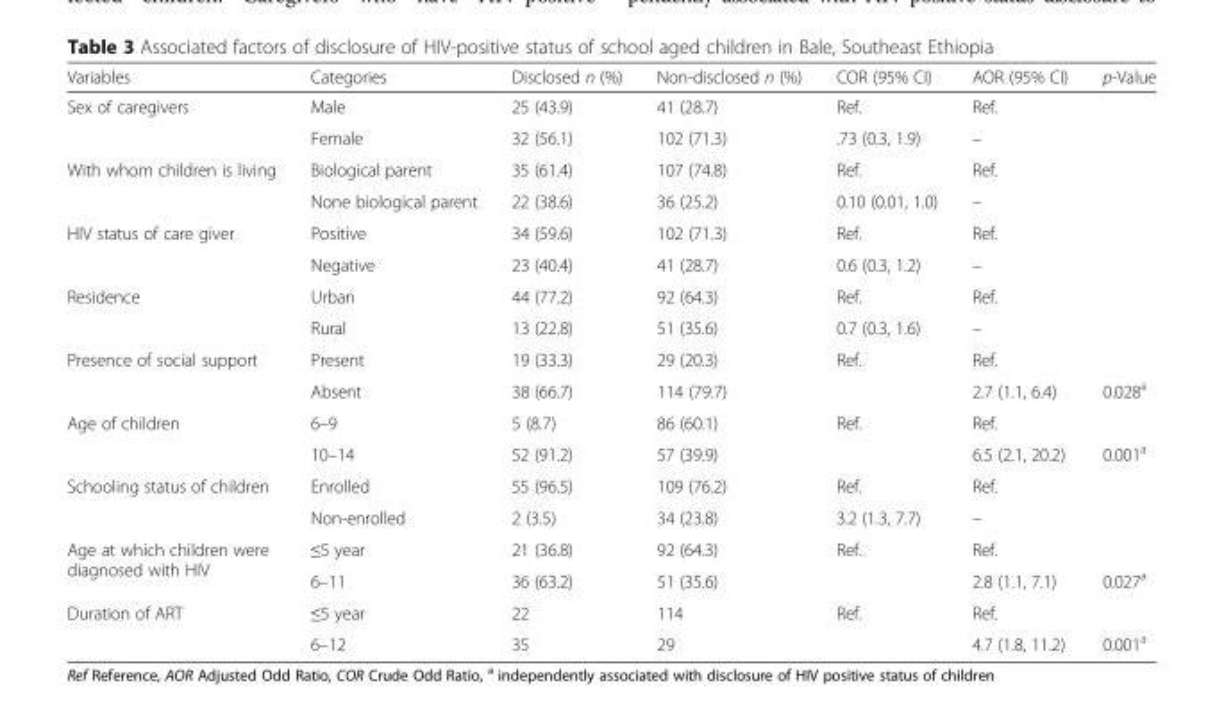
<table><thead><tr><td>Variables</td><td>Categories</td><td>Disclosed n (%)</td><td>Non-disclosed n (%)</td><td>COR (95% CI)</td><td>AOR (95% CI)</td><td>p-Value</td></tr></thead><tbody><tr><td rowspan="2">Sex of caregivers</td><td>Male</td><td>25 (43.9)</td><td>41 (28.7)</td><td>Ref.</td><td>Ref.</td><td></td></tr><tr><td>Female</td><td>32 (56.1)</td><td>102 (71.3)</td><td>.73 (0.3, 1.9)</td><td>–</td><td></td></tr><tr><td rowspan="2">With whom children is living</td><td>Biological parent</td><td>35 (61.4)</td><td>107 (74.8)</td><td>Ref.</td><td>Ref.</td><td></td></tr><tr><td>None biological parent</td><td>22 (38.6)</td><td>36 (25.2)</td><td>0.10 (0.01, 1.0)</td><td>–</td><td></td></tr><tr><td rowspan="2">HIV status of care giver</td><td>Positive</td><td>34 (59.6)</td><td>102 (71.3)</td><td>Ref.</td><td>Ref.</td><td></td></tr><tr><td>Negative</td><td>23 (40.4)</td><td>41 (28.7)</td><td>0.6 (0.3, 1.2)</td><td>–</td><td></td></tr><tr><td rowspan="2">Residence</td><td>Urban</td><td>44 (77.2)</td><td>92 (64.3)</td><td>Ref.</td><td>Ref.</td><td></td></tr><tr><td>Rural</td><td>13 (22.8)</td><td>51 (35.6)</td><td>0.7 (0.3, 1.6)</td><td>–</td><td></td></tr><tr><td rowspan="2">Presence of social support</td><td>Present</td><td>19 (33.3)</td><td>29 (20.3)</td><td>Ref.</td><td>Ref.</td><td></td></tr><tr><td>Absent</td><td>38 (66.7)</td><td>114 (79.7)</td><td></td><td>2.7 (1.1, 6.4)</td><td>0.028<sup>a</sup></td></tr><tr><td rowspan="2">Age of children</td><td>6–9</td><td>5 (8.7)</td><td>86 (60.1)</td><td>Ref.</td><td>Ref.</td><td></td></tr><tr><td>10–14</td><td>52 (91.2)</td><td>57 (39.9)</td><td></td><td>6.5 (2.1, 20.2)</td><td>0.001<sup>a</sup></td></tr><tr><td rowspan="2">Schooling status of children</td><td>Enrolled</td><td>55 (96.5)</td><td>109 (76.2)</td><td>Ref.</td><td>Ref.</td><td></td></tr><tr><td>Non-enrolled</td><td>2 (3.5)</td><td>34 (23.8)</td><td>3.2 (1.3, 7.7)</td><td>–</td><td></td></tr><tr><td rowspan="2">Age at which children were diagnosed with HIV</td><td>≤5 year</td><td>21 (36.8)</td><td>92 (64.3)</td><td>Ref.</td><td>Ref.</td><td></td></tr><tr><td>6–11</td><td>36 (63.2)</td><td>51 (35.6)</td><td></td><td>2.8 (1.1, 7.1)</td><td>0.027<sup>a</sup></td></tr><tr><td rowspan="2">Duration of ART</td><td>≤5 year</td><td>22</td><td>114</td><td>Ref.</td><td>Ref.</td><td></td></tr><tr><td>6–12</td><td>35</td><td>29</td><td></td><td>4.7 (1.8, 11.2)</td><td>0.001<sup>a</sup></td></tr></tbody></table>